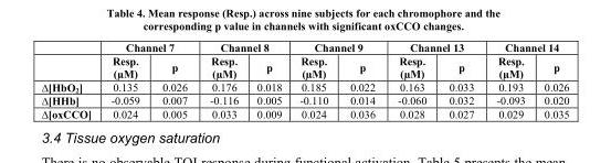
<table><thead><tr><td rowspan="2"></td><td colspan="2">Channel 7</td><td colspan="2">Channel 8</td><td colspan="2">Channel 9</td><td colspan="2">Channel 13</td><td colspan="2">Channel 14</td></tr><tr><td>Resp. (µM)</td><td>p</td><td>Resp. (µM)</td><td>p</td><td>Resp. (µM)</td><td>p</td><td>Resp. (µM)</td><td>p</td><td>Resp. (µM)</td><td>p</td></tr></thead><tbody><tr><td>∆[HbO<sub>2</sub>]</td><td>0.135</td><td>0.026</td><td>0.176</td><td>0.018</td><td>0.185</td><td>0.022</td><td>0.163</td><td>0.033</td><td>0.193</td><td>0.026</td></tr><tr><td>∆[HHb]</td><td>-0.059</td><td>0.007</td><td>-0.116</td><td>0.005</td><td>-0.110</td><td>0.014</td><td>-0.060</td><td>0.032</td><td>-0.093</td><td>0.020</td></tr><tr><td>∆[oxCCO]</td><td>0.024</td><td>0.005</td><td>0.033</td><td>0.009</td><td>0.024</td><td>0.036</td><td>0.028</td><td>0.027</td><td>0.029</td><td>0.035</td></tr></tbody></table>